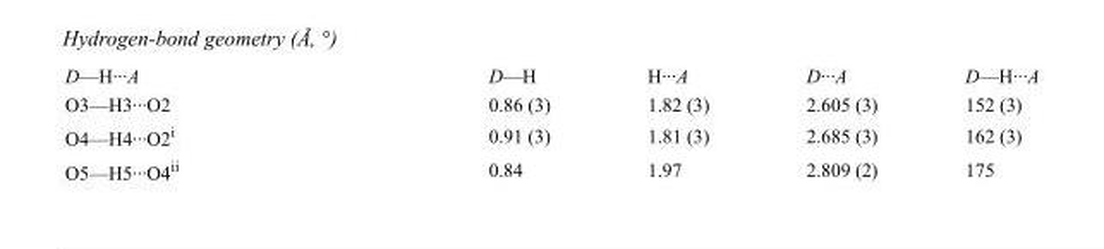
<table><tbody><tr><td>D—H···A</td><td>D—H</td><td>H···A</td><td>D···A</td><td>D—H···A</td></tr><tr><td>O3—H3···O2</td><td>0.86 (3)</td><td>1.82 (3)</td><td>2.605 (3)</td><td>152 (3)</td></tr><tr><td>O4—H4···O2<sup>i</sup></td><td>0.91 (3)</td><td>1.81 (3)</td><td>2.685 (3)</td><td>162 (3)</td></tr><tr><td>O5—H5···O4<sup>ii</sup></td><td>0.84</td><td>1.97</td><td>2.809 (2)</td><td>175</td></tr></tbody></table>